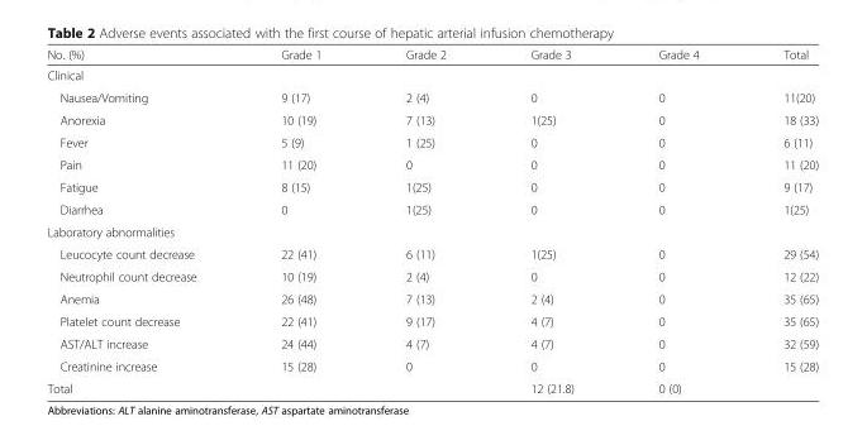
<table><thead><tr><td>No. (%)</td><td>Grade 1</td><td>Grade 2</td><td>Grade 3</td><td>Grade 4</td><td>Total</td></tr></thead><tbody><tr><td colspan="6">Clinical</td></tr><tr><td>Nausea/Vomiting</td><td>9 (17)</td><td>2 (4)</td><td>0</td><td>0</td><td>11(20)</td></tr><tr><td>Anorexia</td><td>10 (19)</td><td>7 (13)</td><td>1(25)</td><td>0</td><td>18 (33)</td></tr><tr><td>Fever</td><td>5 (9)</td><td>1 (25)</td><td>0</td><td>0</td><td>6 (11)</td></tr><tr><td>Pain</td><td>11 (20)</td><td>0</td><td>0</td><td>0</td><td>11 (20)</td></tr><tr><td>Fatigue</td><td>8 (15)</td><td>1(25)</td><td>0</td><td>0</td><td>9 (17)</td></tr><tr><td>Diarrhea</td><td>0</td><td>1(25)</td><td>0</td><td>0</td><td>1(25)</td></tr><tr><td colspan="6">Laboratory abnormalities</td></tr><tr><td>Leucocyte count decrease</td><td>22 (41)</td><td>6 (11)</td><td>1(25)</td><td>0</td><td>29 (54)</td></tr><tr><td>Neutrophil count decrease</td><td>10 (19)</td><td>2 (4)</td><td>0</td><td>0</td><td>12 (22)</td></tr><tr><td>Anemia</td><td>26 (48)</td><td>7 (13)</td><td>2 (4)</td><td>0</td><td>35 (65)</td></tr><tr><td>Platelet count decrease</td><td>22 (41)</td><td>9 (17)</td><td>4 (7)</td><td>0</td><td>35 (65)</td></tr><tr><td>AST/ALT increase</td><td>24 (44)</td><td>4 (7)</td><td>4 (7)</td><td>0</td><td>32 (59)</td></tr><tr><td>Creatinine increase</td><td>15 (28)</td><td>0</td><td>0</td><td>0</td><td>15 (28)</td></tr><tr><td>Total</td><td></td><td></td><td>12 (21.8)</td><td>0 (0)</td><td></td></tr></tbody></table>